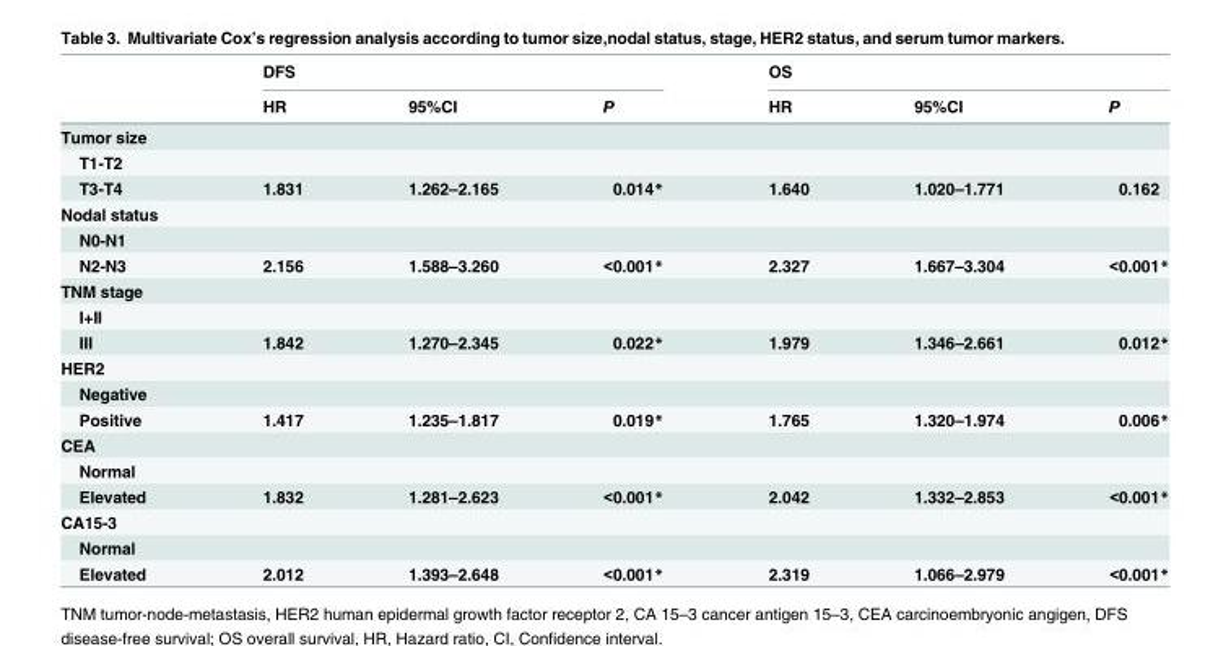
<table><thead><tr><td rowspan="2"></td><td colspan="3">DFS</td><td colspan="3">OS</td></tr><tr><td>HR</td><td>95%CI</td><td>P</td><td>HR</td><td>95%CI</td><td>P</td></tr></thead><tbody><tr><td colspan="7">Tumor size</td></tr><tr><td colspan="7">T1-T2</td></tr><tr><td>T3-T4</td><td>1.831</td><td>1.262–2.165</td><td>0.014*</td><td>1.640</td><td>1.020–1.771</td><td>0.162</td></tr><tr><td colspan="7">Nodal status</td></tr><tr><td colspan="7">N0-N1</td></tr><tr><td>N2-N3</td><td>2.156</td><td>1.588–3.260</td><td>&lt;0.001*</td><td>2.327</td><td>1.667–3.304</td><td>&lt;0.001*</td></tr><tr><td colspan="7">TNM stage</td></tr><tr><td colspan="7">I+II</td></tr><tr><td>III</td><td>1.842</td><td>1.270–2.345</td><td>0.022*</td><td>1.979</td><td>1.346–2.661</td><td>0.012*</td></tr><tr><td colspan="7">HER2</td></tr><tr><td colspan="7">Negative</td></tr><tr><td>Positive</td><td>1.417</td><td>1.235–1.817</td><td>0.019*</td><td>1.765</td><td>1.320–1.974</td><td>0.006*</td></tr><tr><td colspan="7">CEA</td></tr><tr><td colspan="7">Normal</td></tr><tr><td>Elevated</td><td>1.832</td><td>1.281–2.623</td><td>&lt;0.001*</td><td>2.042</td><td>1.332–2.853</td><td>&lt;0.001*</td></tr><tr><td colspan="7">CA15-3</td></tr><tr><td colspan="7">Normal</td></tr><tr><td>Elevated</td><td>2.012</td><td>1.393–2.648</td><td>&lt;0.001*</td><td>2.319</td><td>1.066–2.979</td><td>&lt;0.001*</td></tr></tbody></table>